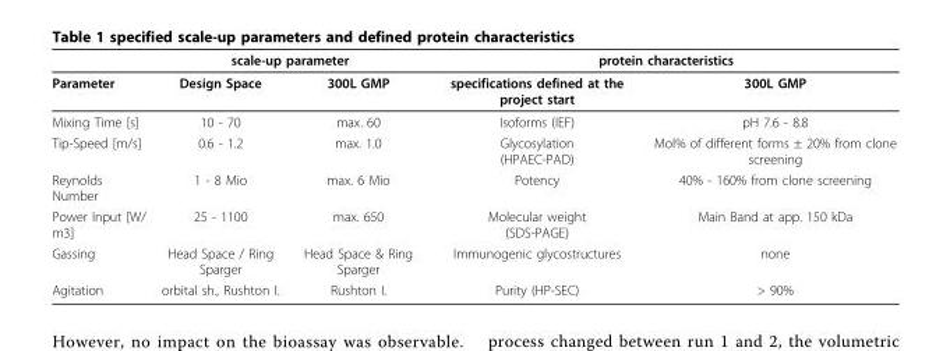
<table><thead><tr><td rowspan="2">Parameter</td><td colspan="2">scale-up parameter</td><td colspan="2">protein characteristics</td></tr><tr><td>Design Space</td><td>300L GMP</td><td>specifications defined at the project start</td><td>300L GMP</td></tr></thead><tbody><tr><td>Mixing Time [s]</td><td>10 - 70</td><td>max. 60</td><td>Isoforms (IEF)</td><td>pH 7.6 - 8.8</td></tr><tr><td>Tip-Speed [m/s]</td><td>0.6 - 1.2</td><td>max. 1.0</td><td>Glycosylation (HPAEC-PAD)</td><td>Mol% of different forms ± 20% from clone screening</td></tr><tr><td>Reynolds Number</td><td>1 - 8 Mio</td><td>max. 6 Mio</td><td>Potency</td><td>40% - 160% from clone screening</td></tr><tr><td>Power Input [W/ m3]</td><td>25 - 1100</td><td>max. 650</td><td>Molecular weight (SDS-PAGE)</td><td>Main Band at app. 150 kDa</td></tr><tr><td>Gassing</td><td>Head Space / Ring Sparger</td><td>Head Space &amp; Ring Sparger</td><td>Immunogenic glycostructures</td><td>none</td></tr><tr><td>Agitation</td><td>orbital sh., Rushton I.</td><td>Rushton I.</td><td>Purity (HP-SEC)</td><td>&gt; 90%</td></tr></tbody></table>